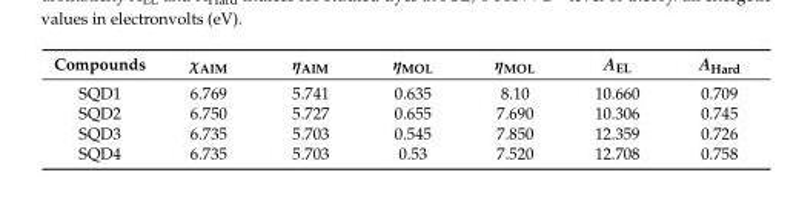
<table><thead><tr><td>Compounds</td><td>χAIM</td><td>ηAIM</td><td>ηMOL</td><td>ηMOL</td><td>AEL</td><td>AHard</td></tr></thead><tbody><tr><td>SQD1</td><td>6.769</td><td>5.741</td><td>0.635</td><td>8.10</td><td>10.660</td><td>0.709</td></tr><tr><td>SQD2</td><td>6.750</td><td>5.727</td><td>0.655</td><td>7.690</td><td>10.306</td><td>0.745</td></tr><tr><td>SQD3</td><td>6.735</td><td>5.703</td><td>0.545</td><td>7.850</td><td>12.359</td><td>0.726</td></tr><tr><td>SQD4</td><td>6.735</td><td>5.703</td><td>0.53</td><td>7.520</td><td>12.708</td><td>0.758</td></tr></tbody></table>